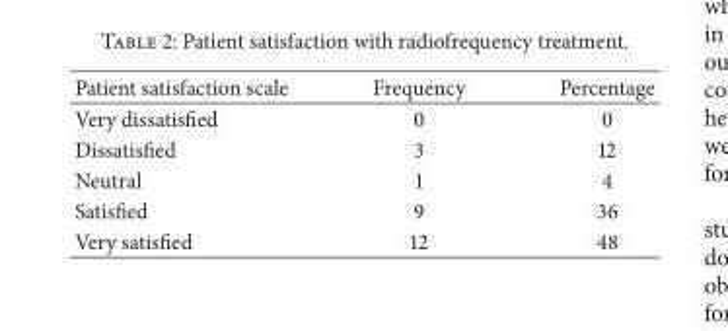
<table><thead><tr><td>Patient satisfaction scale</td><td>Frequency</td><td>Percentage</td></tr></thead><tbody><tr><td>Very dissatisfied</td><td>0</td><td>0</td></tr><tr><td>Dissatisfied</td><td>3</td><td>12</td></tr><tr><td>Neutral</td><td>1</td><td>4</td></tr><tr><td>Satisfied</td><td>9</td><td>36</td></tr><tr><td>Very satisfied</td><td>12</td><td>48</td></tr></tbody></table>